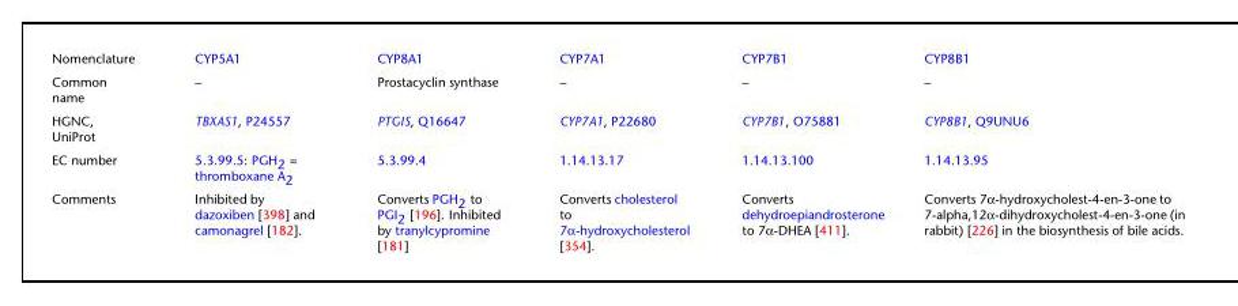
<table><tbody><tr><td>Nomenclature</td><td>CYP5A1</td><td>CYP8A1</td><td>CYP7A1</td><td>CYP7B1</td><td>CYP8B1</td></tr><tr><td>Common name</td><td>–</td><td>Prostacyclin synthase</td><td>–</td><td>–</td><td>–</td></tr><tr><td>HGNC, UniProt</td><td>TBXAS1, P24557</td><td>PTGIS, Q16647</td><td>CYP7A1, P22680</td><td>CYP7B1, O75881</td><td>CYP8B1, Q9UNU6</td></tr><tr><td>EC number</td><td>5.3.99.5: PGH<sub>2</sub> = thromboxane A<sub>2</sub></td><td>5.3.99.4</td><td>1.14.13.17</td><td>1.14.13.100</td><td>1.14.13.95</td></tr><tr><td>Comments</td><td>Inhibited by dazoxiben [398] and camonagrel [182].</td><td>Converts PGH<sub>2</sub> to PGI<sub>2</sub> [196]. Inhibited by tranylcypromine [181]</td><td>Converts cholesterol to 7α-hydroxycholesterol [354].</td><td>Converts dehydroepiandrosterone to 7α-DHEA [411].</td><td>Converts 7α-hydroxycholest-4-en-3-one to 7-alpha,12α-dihydroxycholest-4-en-3-one (in rabbit) [226] in the biosynthesis of bile acids.</td></tr></tbody></table>